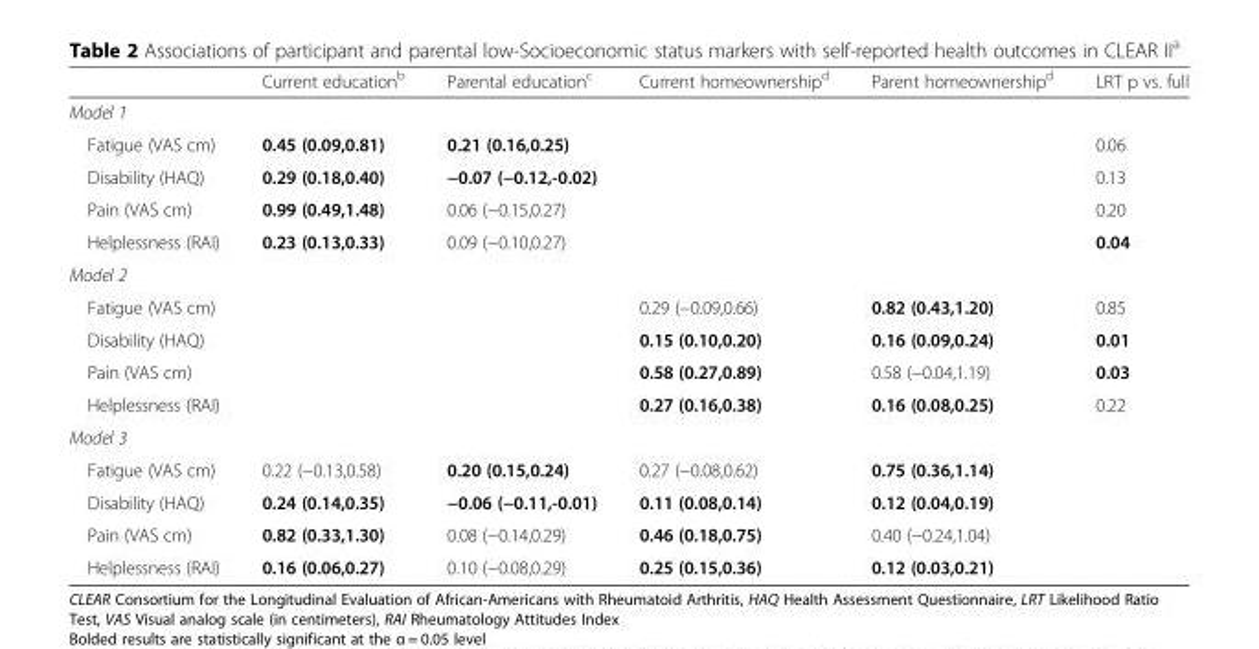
<table><thead><tr><td></td><td>Current education<sup>b</sup></td><td>Parental education<sup>c</sup></td><td>Current homeownership<sup>d</sup></td><td>Parent homeownership<sup>d</sup></td><td>LRT p vs. full</td></tr></thead><tbody><tr><td colspan="6">Model 1</td></tr><tr><td>Fatigue (VAS cm)</td><td>0.45 (0.09,0.81)</td><td>0.21 (0.16,0.25)</td><td></td><td></td><td>0.06</td></tr><tr><td>Disability (HAQ)</td><td>0.29 (0.18,0.40)</td><td>−0.07 (−0.12,-0.02)</td><td></td><td></td><td>0.13</td></tr><tr><td>Pain (VAS cm)</td><td>0.99 (0.49,1.48)</td><td>0.06 (−0.15,0.27)</td><td></td><td></td><td>0.20</td></tr><tr><td>Helplessness (RAI)</td><td>0.23 (0.13,0.33)</td><td>0.09 (−0.10,0.27)</td><td></td><td></td><td>0.04</td></tr><tr><td colspan="6">Model 2</td></tr><tr><td>Fatigue (VAS cm)</td><td></td><td></td><td>0.29 (−0.09,0.66)</td><td>0.82 (0.43,1.20)</td><td>0.85</td></tr><tr><td>Disability (HAQ)</td><td></td><td></td><td>0.15 (0.10,0.20)</td><td>0.16 (0.09,0.24)</td><td>0.01</td></tr><tr><td>Pain (VAS cm)</td><td></td><td></td><td>0.58 (0.27,0.89)</td><td>0.58 (−0.04,1.19)</td><td>0.03</td></tr><tr><td>Helplessness (RAI)</td><td></td><td></td><td>0.27 (0.16,0.38)</td><td>0.16 (0.08,0.25)</td><td>0.22</td></tr><tr><td colspan="6">Model 3</td></tr><tr><td>Fatigue (VAS cm)</td><td>0.22 (−0.13,0.58)</td><td>0.20 (0.15,0.24)</td><td>0.27 (−0.08,0.62)</td><td>0.75 (0.36,1.14)</td><td></td></tr><tr><td>Disability (HAQ)</td><td>0.24 (0.14,0.35)</td><td>−0.06 (−0.11,-0.01)</td><td>0.11 (0.08,0.14)</td><td>0.12 (0.04,0.19)</td><td></td></tr><tr><td>Pain (VAS cm)</td><td>0.82 (0.33,1.30)</td><td>0.08 (−0.14,0.29)</td><td>0.46 (0.18,0.75)</td><td>0.40 (−0.24,1.04)</td><td></td></tr><tr><td>Helplessness (RAI)</td><td>0.16 (0.06,0.27)</td><td>0.10 (−0.08,0.29)</td><td>0.25 (0.15,0.36)</td><td>0.12 (0.03,0.21)</td><td></td></tr></tbody></table>